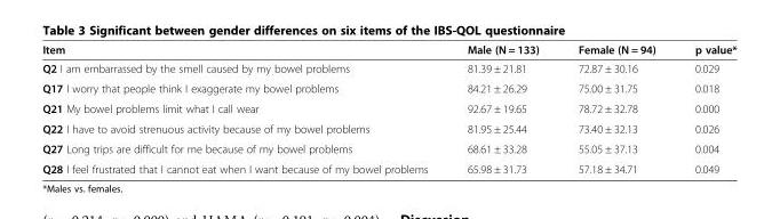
<table><thead><tr><td>Item</td><td>Male (N = 133)</td><td>Female (N = 94)</td><td>p value*</td></tr></thead><tbody><tr><td>Q2 I am embarrassed by the smell caused by my bowel problems</td><td>81.39 ± 21.81</td><td>72.87 ± 30.16</td><td>0.029</td></tr><tr><td>Q17 I worry that people think I exaggerate my bowel problems</td><td>84.21 ± 26.29</td><td>75.00 ± 31.75</td><td>0.018</td></tr><tr><td>Q21 My bowel problems limit what I call wear</td><td>92.67 ± 19.65</td><td>78.72 ± 32.78</td><td>0.000</td></tr><tr><td>Q22 I have to avoid strenuous activity because of my bowel problems</td><td>81.95 ± 25.44</td><td>73.40 ± 32.13</td><td>0.026</td></tr><tr><td>Q27 Long trips are difficult for me because of my bowel problems</td><td>68.61 ± 33.28</td><td>55.05 ± 37.13</td><td>0.004</td></tr><tr><td>Q28 I feel frustrated that I cannot eat when I want because of my bowel problems</td><td>65.98 ± 31.73</td><td>57.18 ± 34.71</td><td>0.049</td></tr></tbody></table>